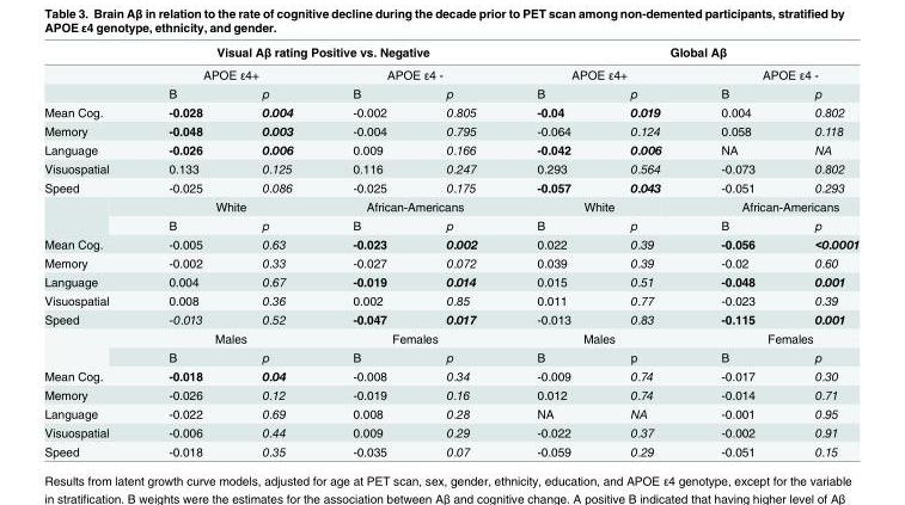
<table><thead><tr><td rowspan="3"></td><td colspan="4">Visual Aβ rating Positive vs. Negative</td><td colspan="4">Global Aβ</td></tr><tr><td colspan="2">APOE ε4+</td><td colspan="2">APOE ε4 -</td><td colspan="2">APOE ε4+</td><td colspan="2">APOE ε4 -</td></tr><tr><td>B</td><td>p</td><td>B</td><td>p</td><td>B</td><td>p</td><td>B</td><td>p</td></tr></thead><tbody><tr><td>Mean Cog.</td><td>-0.028</td><td>0.004</td><td>-0.002</td><td>0.805</td><td>-0.04</td><td>0.019</td><td>0.004</td><td>0.802</td></tr><tr><td>Memory</td><td>-0.048</td><td>0.003</td><td>-0.004</td><td>0.795</td><td>-0.064</td><td>0.124</td><td>0.058</td><td>0.118</td></tr><tr><td>Language</td><td>-0.026</td><td>0.006</td><td>0.009</td><td>0.166</td><td>-0.042</td><td>0.006</td><td>NA</td><td>NA</td></tr><tr><td>Visuospatial</td><td>0.133</td><td>0.125</td><td>0.116</td><td>0.247</td><td>0.293</td><td>0.564</td><td>-0.073</td><td>0.802</td></tr><tr><td rowspan="3">Speed</td><td>-0.025</td><td>0.086</td><td>-0.025</td><td>0.175</td><td>-0.057</td><td>0.043</td><td>-0.051</td><td>0.293</td></tr><tr><td colspan="2">White</td><td colspan="2">African-Americans</td><td colspan="2">White</td><td colspan="2">African-Americans</td></tr><tr><td>B</td><td>p</td><td>B</td><td>p</td><td>B</td><td>p</td><td>B</td><td>p</td></tr><tr><td>Mean Cog.</td><td>-0.005</td><td>0.63</td><td>-0.023</td><td>0.002</td><td>0.022</td><td>0.39</td><td>-0.056</td><td>&lt;0.0001</td></tr><tr><td>Memory</td><td>-0.002</td><td>0.33</td><td>-0.027</td><td>0.072</td><td>0.039</td><td>0.39</td><td>-0.02</td><td>0.60</td></tr><tr><td>Language</td><td>0.004</td><td>0.67</td><td>-0.019</td><td>0.014</td><td>0.015</td><td>0.51</td><td>-0.048</td><td>0.001</td></tr><tr><td>Visuospatial</td><td>0.008</td><td>0.36</td><td>0.002</td><td>0.85</td><td>0.011</td><td>0.77</td><td>-0.023</td><td>0.39</td></tr><tr><td rowspan="3">Speed</td><td>-0.013</td><td>0.52</td><td>-0.047</td><td>0.017</td><td>-0.013</td><td>0.83</td><td>-0.115</td><td>0.001</td></tr><tr><td colspan="2">Males</td><td colspan="2">Females</td><td colspan="2">Males</td><td colspan="2">Females</td></tr><tr><td>B</td><td>p</td><td>B</td><td>p</td><td>B</td><td>p</td><td>B</td><td>p</td></tr><tr><td>Mean Cog.</td><td>-0.018</td><td>0.04</td><td>-0.008</td><td>0.34</td><td>-0.009</td><td>0.74</td><td>-0.017</td><td>0.30</td></tr><tr><td>Memory</td><td>-0.026</td><td>0.12</td><td>-0.019</td><td>0.16</td><td>0.012</td><td>0.74</td><td>-0.014</td><td>0.71</td></tr><tr><td>Language</td><td>-0.022</td><td>0.69</td><td>0.008</td><td>0.28</td><td>NA</td><td>NA</td><td>-0.001</td><td>0.95</td></tr><tr><td>Visuospatial</td><td>-0.006</td><td>0.44</td><td>0.009</td><td>0.29</td><td>-0.022</td><td>0.37</td><td>-0.002</td><td>0.91</td></tr><tr><td>Speed</td><td>-0.018</td><td>0.35</td><td>-0.035</td><td>0.07</td><td>-0.059</td><td>0.29</td><td>-0.051</td><td>0.15</td></tr></tbody></table>